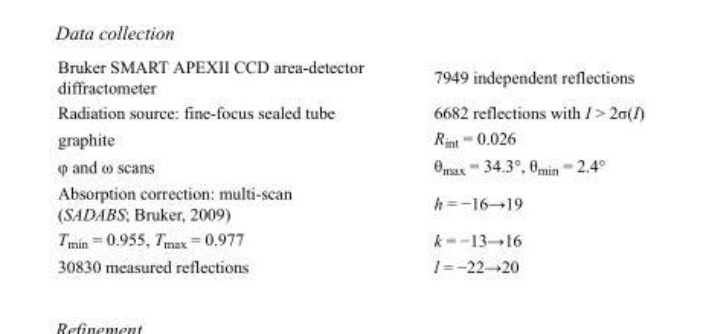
<table><tbody><tr><td>Bruker SMART APEXII CCD area-detector diffractometer</td><td>7949 independent reflections</td></tr><tr><td>Radiation source: fine-focus sealed tube</td><td>6682 reflections with I &gt; 2σ(I)</td></tr><tr><td>graphite</td><td>R<sub>int</sub> = 0.026</td></tr><tr><td>φ and ω scans</td><td>θ<sub>max</sub> = 34.3°, θ<sub>min</sub> = 2.4°</td></tr><tr><td>Absorption correction: multi-scan (SADABS; Bruker, 2009)</td><td>h = −16→19</td></tr><tr><td>T<sub>min</sub> = 0.955, T<sub>max</sub> = 0.977</td><td>k = −13→16</td></tr><tr><td>30830 measured reflections</td><td>l = −22→20</td></tr></tbody></table>